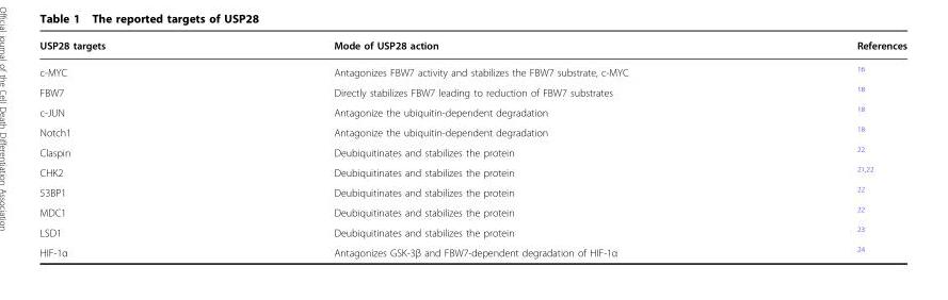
<table><thead><tr><td>USP28 targets</td><td>Mode of USP28 action</td><td>References</td></tr></thead><tbody><tr><td>c-MYC</td><td>Antagonizes FBW7 activity and stabilizes the FBW7 substrate, c-MYC</td><td><sup>16</sup></td></tr><tr><td>FBW7</td><td>Directly stabilizes FBW7 leading to reduction of FBW7 substrates</td><td><sup>18</sup></td></tr><tr><td>c-JUN</td><td>Antagonize the ubiquitin-dependent degradation</td><td><sup>18</sup></td></tr><tr><td>Notch1</td><td>Antagonize the ubiquitin-dependent degradation</td><td><sup>18</sup></td></tr><tr><td>Claspin</td><td>Deubiquitinates and stabilizes the protein</td><td><sup>22</sup></td></tr><tr><td>CHK2</td><td>Deubiquitinates and stabilizes the protein</td><td><sup>21,22</sup></td></tr><tr><td>53BP1</td><td>Deubiquitinates and stabilizes the protein</td><td><sup>22</sup></td></tr><tr><td>MDC1</td><td>Deubiquitinates and stabilizes the protein</td><td><sup>22</sup></td></tr><tr><td>LSD1</td><td>Deubiquitinates and stabilizes the protein</td><td><sup>23</sup></td></tr><tr><td>HIF-1α</td><td>Antagonizes GSK-3β and FBW7-dependent degradation of HIF-1α</td><td><sup>24</sup></td></tr></tbody></table>